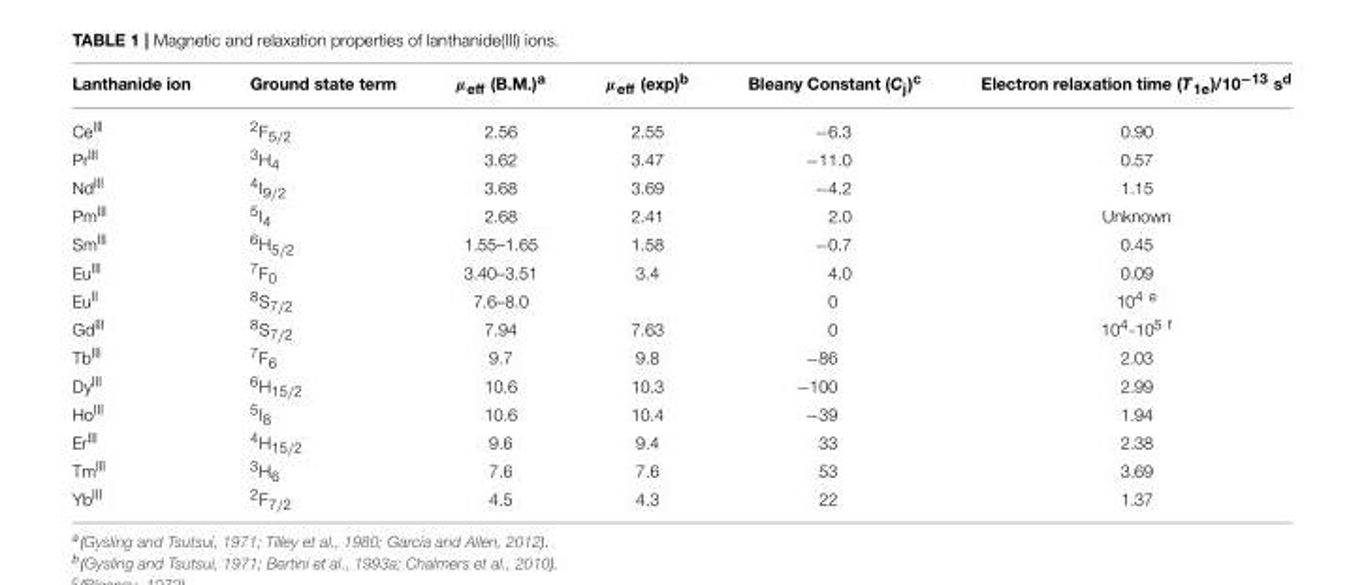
<table><thead><tr><td>Lanthanide ion</td><td>Ground state term</td><td>µ<sub>eff</sub> (B.M.)<sup>a</sup></td><td>µ<sub>eff</sub> (exp)<sup>b</sup></td><td>Bleany Constant (C<sub>j</sub>)<sup>c</sup></td><td>Electron relaxation time (T<sub>1e</sub>)/10<sup>−13</sup> s<sup>d</sup></td></tr></thead><tbody><tr><td>Ce<sup>III</sup></td><td><sup>2</sup>F<sub>5/2</sub></td><td>2.56</td><td>2.55</td><td>−6.3</td><td>0.90</td></tr><tr><td>Pr<sup>III</sup></td><td><sup>3</sup>H<sub>4</sub></td><td>3.62</td><td>3.47</td><td>−11.0</td><td>0.57</td></tr><tr><td>Nd<sup>III</sup></td><td><sup>4</sup>I<sub>9/2</sub></td><td>3.68</td><td>3.69</td><td>−4.2</td><td>1.15</td></tr><tr><td>Pm<sup>III</sup></td><td><sup>5</sup>I<sub>4</sub></td><td>2.68</td><td>2.41</td><td>2.0</td><td>Unknown</td></tr><tr><td>Sm<sup>III</sup></td><td><sup>6</sup>H<sub>5/2</sub></td><td>1.55–1.65</td><td>1.58</td><td>−0.7</td><td>0.45</td></tr><tr><td>Eu<sup>III</sup></td><td><sup>7</sup>F<sub>0</sub></td><td>3.40–3.51</td><td>3.4</td><td>4.0</td><td>0.09</td></tr><tr><td>Eu<sup>II</sup></td><td><sup>8</sup>S<sub>7/2</sub></td><td>7.6–8.0</td><td></td><td>0</td><td>10<sup>4 e</sup></td></tr><tr><td>Gd<sup>III</sup></td><td><sup>8</sup>S<sub>7/2</sub></td><td>7.94</td><td>7.63</td><td>0</td><td>10<sup>4</sup>-10<sup>5 f</sup></td></tr><tr><td>Tb<sup>III</sup></td><td><sup>7</sup>F<sub>6</sub></td><td>9.7</td><td>9.8</td><td>−86</td><td>2.03</td></tr><tr><td>Dy<sup>III</sup></td><td><sup>6</sup>H<sub>15/2</sub></td><td>10.6</td><td>10.3</td><td>−100</td><td>2.99</td></tr><tr><td>Ho<sup>III</sup></td><td><sup>5</sup>I<sub>8</sub></td><td>10.6</td><td>10.4</td><td>−39</td><td>1.94</td></tr><tr><td>Er<sup>III</sup></td><td><sup>4</sup>H<sub>15/2</sub></td><td>9.6</td><td>9.4</td><td>33</td><td>2.38</td></tr><tr><td>Tm<sup>III</sup></td><td><sup>3</sup>H<sub>6</sub></td><td>7.6</td><td>7.6</td><td>53</td><td>3.69</td></tr><tr><td>Yb<sup>III</sup></td><td><sup>2</sup>F<sub>7/2</sub></td><td>4.5</td><td>4.3</td><td>22</td><td>1.37</td></tr></tbody></table>